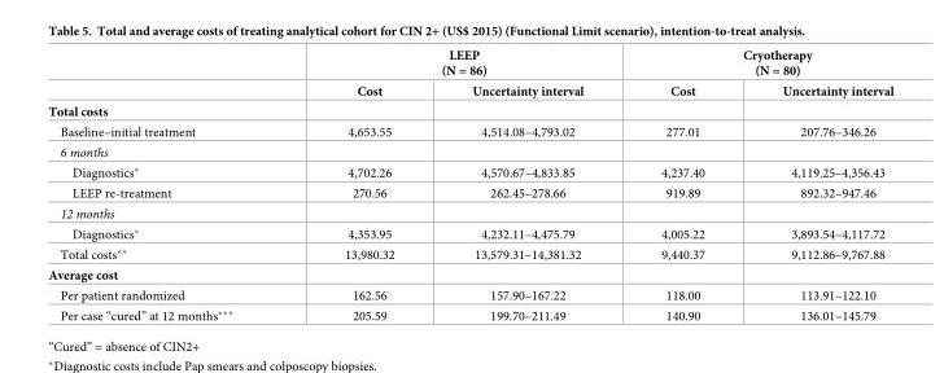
<table><thead><tr><td rowspan="2"></td><td colspan="2">LEEP (N = 86)</td><td colspan="2">Cryotherapy (N = 80)</td></tr><tr><td>Cost</td><td>Uncertainty interval</td><td>Cost</td><td>Uncertainty interval</td></tr></thead><tbody><tr><td colspan="5">Total costs</td></tr><tr><td>Baseline–initial treatment</td><td>4,653.55</td><td>4,514.08–4,793.02</td><td>277.01</td><td>207.76–346.26</td></tr><tr><td colspan="5">6 months</td></tr><tr><td>Diagnostics*</td><td>4,702.26</td><td>4,570.67–4,833.85</td><td>4,237.40</td><td>4,119.25–4,356.43</td></tr><tr><td>LEEP re-treatment</td><td>270.56</td><td>262.45–278.66</td><td>919.89</td><td>892.32–947.46</td></tr><tr><td colspan="5">12 months</td></tr><tr><td>Diagnostics*</td><td>4,353.95</td><td>4,232.11–4,475.79</td><td>4,005.22</td><td>3,893.54–4,117.72</td></tr><tr><td>Total costs**</td><td>13,980.32</td><td>13,579.31–14,381.32</td><td>9,440.37</td><td>9,112.86–9,767.88</td></tr><tr><td colspan="5">Average cost</td></tr><tr><td>Per patient randomized</td><td>162.56</td><td>157.90–167.22</td><td>118.00</td><td>113.91–122.10</td></tr><tr><td>Per case “cured” at 12 months***</td><td>205.59</td><td>199.70–211.49</td><td>140.90</td><td>136.01–145.79</td></tr></tbody></table>